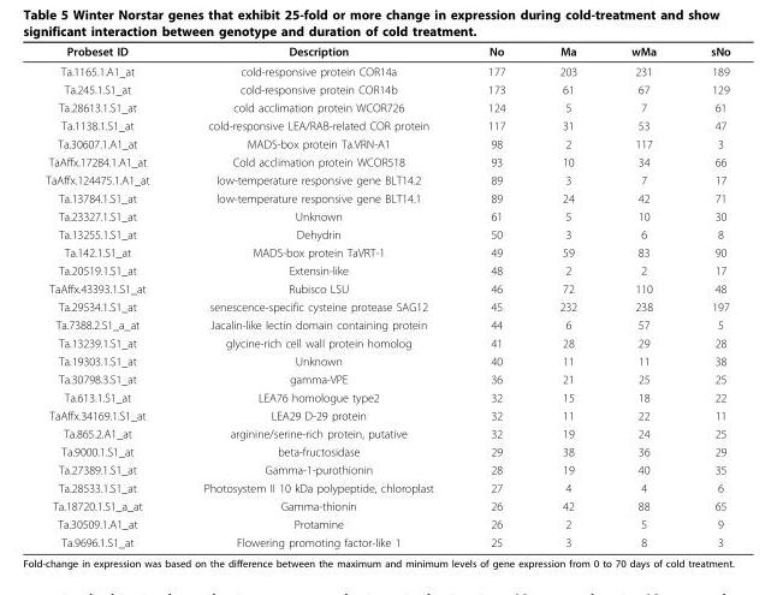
<table><thead><tr><td>Probeset ID</td><td>Description</td><td>No</td><td>Ma</td><td>wMa</td><td>sNo</td></tr></thead><tbody><tr><td>Ta.1165.1.A1_at</td><td>cold-responsive protein COR14a</td><td>177</td><td>203</td><td>231</td><td>189</td></tr><tr><td>Ta.245.1.S1_at</td><td>cold-responsive protein COR14b</td><td>173</td><td>61</td><td>67</td><td>129</td></tr><tr><td>Ta.28613.1.S1_at</td><td>cold acclimation protein WCOR726</td><td>124</td><td>5</td><td>7</td><td>61</td></tr><tr><td>Ta.1138.1.S1_at</td><td>cold-responsive LEA/RAB-related COR protein</td><td>117</td><td>31</td><td>53</td><td>47</td></tr><tr><td>Ta.30607.1.A1_at</td><td>MADS-box protein Ta.VRN-A1</td><td>98</td><td>2</td><td>117</td><td>3</td></tr><tr><td>TaAffx.17284.1.A1_at</td><td>Cold acclimation protein WCOR518</td><td>93</td><td>10</td><td>34</td><td>66</td></tr><tr><td>TaAffx.124475.1.A1_at</td><td>low-temperature responsive gene BLT14.2</td><td>89</td><td>3</td><td>7</td><td>17</td></tr><tr><td>Ta.13784.1.S1_at</td><td>low-temperature responsive gene BLT14.1</td><td>89</td><td>24</td><td>42</td><td>71</td></tr><tr><td>Ta.23327.1.S1_at</td><td>Unknown</td><td>61</td><td>5</td><td>10</td><td>30</td></tr><tr><td>Ta.13255.1.S1_at</td><td>Dehydrin</td><td>50</td><td>3</td><td>6</td><td>8</td></tr><tr><td>Ta.142.1.S1_at</td><td>MADS-box protein TaVRT-1</td><td>49</td><td>59</td><td>83</td><td>90</td></tr><tr><td>Ta.20519.1.S1_at</td><td>Extensin-like</td><td>48</td><td>2</td><td>2</td><td>17</td></tr><tr><td>TaAffx.43393.1.S1_at</td><td>Rubisco LSU</td><td>46</td><td>72</td><td>110</td><td>48</td></tr><tr><td>Ta.29534.1.S1_at</td><td>senescence-specific cysteine protease SAG12</td><td>45</td><td>232</td><td>238</td><td>197</td></tr><tr><td>Ta.7388.2.S1_a_at</td><td>Jacalin-like lectin domain containing protein</td><td>44</td><td>6</td><td>57</td><td>5</td></tr><tr><td>Ta.13239.1.S1_at</td><td>glycine-rich cell wall protein homolog</td><td>41</td><td>28</td><td>29</td><td>28</td></tr><tr><td>Ta.19303.1.S1_at</td><td>Unknown</td><td>40</td><td>11</td><td>11</td><td>38</td></tr><tr><td>Ta.30798.3.S1_at</td><td>gamma-VPE</td><td>36</td><td>21</td><td>25</td><td>25</td></tr><tr><td>Ta.613.1.S1_at</td><td>LEA76 homologue type2</td><td>32</td><td>15</td><td>18</td><td>22</td></tr><tr><td>TaAffx.34169.1.S1_at</td><td>LEA29 D-29 protein</td><td>32</td><td>11</td><td>22</td><td>11</td></tr><tr><td>Ta.865.2.A1_at</td><td>arginine/serine-rich protein, putative</td><td>32</td><td>19</td><td>24</td><td>25</td></tr><tr><td>Ta.9000.1.S1_at</td><td>beta-fructosidase</td><td>29</td><td>38</td><td>36</td><td>29</td></tr><tr><td>Ta.27389.1.S1_at</td><td>Gamma-1-purothionin</td><td>28</td><td>19</td><td>40</td><td>35</td></tr><tr><td>Ta.28533.1.S1_at</td><td>Photosystem II 10 kDa polypeptide, chloroplast</td><td>27</td><td>4</td><td>4</td><td>6</td></tr><tr><td>Ta.18720.1.S1_a_at</td><td>Gamma-thionin</td><td>26</td><td>42</td><td>88</td><td>65</td></tr><tr><td>Ta.30509.1.A1_at</td><td>Protamine</td><td>26</td><td>2</td><td>5</td><td>9</td></tr><tr><td>Ta.9696.1.S1_at</td><td>Flowering promoting factor-like 1</td><td>25</td><td>3</td><td>8</td><td>3</td></tr></tbody></table>